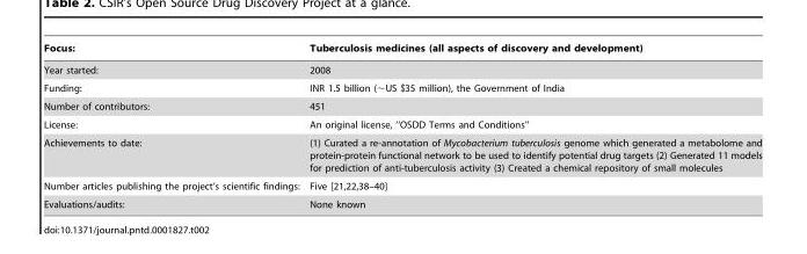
<table><thead><tr><td>Focus:</td><td>Tuberculosis medicines (all aspects of discovery and development)</td></tr></thead><tbody><tr><td>Year started:</td><td>2008</td></tr><tr><td>Funding:</td><td>INR 1.5 billion (∼US $35 million), the Government of India</td></tr><tr><td>Number of contributors:</td><td>451</td></tr><tr><td>License:</td><td>An original license, ‘‘OSDD Terms and Conditions’’</td></tr><tr><td>Achievements to date:</td><td>(1) Curated a re-annotation of Mycobacterium tuberculosis genome which generated a metabolome and protein-protein functional network to be used to identify potential drug targets (2) Generated 11 models for prediction of anti-tuberculosis activity (3) Created a chemical repository of small molecules</td></tr><tr><td>Number articles publishing the project’s scientific findings:</td><td>Five [21,22,38–40]</td></tr><tr><td>Evaluations/audits:</td><td>None known</td></tr></tbody></table>